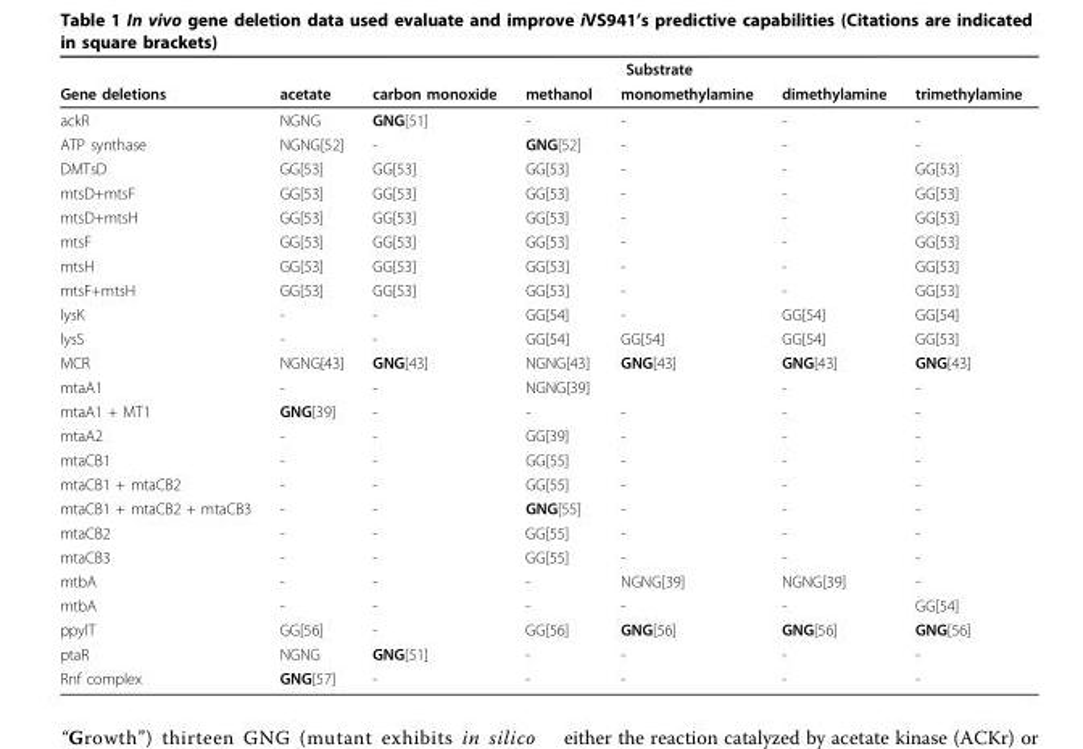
<table><thead><tr><td rowspan="2">Gene deletions</td><td colspan="6">Substrate</td></tr><tr><td>acetate</td><td>carbon monoxide</td><td>methanol</td><td>monomethylamine</td><td>dimethylamine</td><td>trimethylamine</td></tr></thead><tbody><tr><td>ackR</td><td>NGNG</td><td>GNG[51]</td><td>-</td><td>-</td><td>-</td><td>-</td></tr><tr><td>ATP synthase</td><td>NGNG[52]</td><td>-</td><td>GNG[52]</td><td>-</td><td>-</td><td>-</td></tr><tr><td>DMTsD</td><td>GG[53]</td><td>GG[53]</td><td>GG[53]</td><td>-</td><td>-</td><td>GG[53]</td></tr><tr><td>mtsD+mtsF</td><td>GG[53]</td><td>GG[53]</td><td>GG[53]</td><td>-</td><td>-</td><td>GG[53]</td></tr><tr><td>mtsD+mtsH</td><td>GG[53]</td><td>GG[53]</td><td>GG[53]</td><td>-</td><td>-</td><td>GG[53]</td></tr><tr><td>mtsF</td><td>GG[53]</td><td>GG[53]</td><td>GG[53]</td><td>-</td><td>-</td><td>GG[53]</td></tr><tr><td>mtsH</td><td>GG[53]</td><td>GG[53]</td><td>GG[53]</td><td>-</td><td>-</td><td>GG[53]</td></tr><tr><td>mtsF+mtsH</td><td>GG[53]</td><td>GG[53]</td><td>GG[53]</td><td>-</td><td>-</td><td>GG[53]</td></tr><tr><td>lysK</td><td>-</td><td>-</td><td>GG[54]</td><td>-</td><td>GG[54]</td><td>GG[54]</td></tr><tr><td>lysS</td><td>-</td><td>-</td><td>GG[54]</td><td>GG[54]</td><td>GG[54]</td><td>GG[53]</td></tr><tr><td>MCR</td><td>NGNG[43]</td><td>GNG[43]</td><td>NGNG[43]</td><td>GNG[43]</td><td>GNG[43]</td><td>GNG[43]</td></tr><tr><td>mtaA1</td><td>-</td><td>-</td><td>NGNG[39]</td><td></td><td>-</td><td>-</td></tr><tr><td>mtaA1 + MT1</td><td>GNG[39]</td><td>-</td><td>-</td><td>-</td><td>-</td><td>-</td></tr><tr><td>mtaA2</td><td>-</td><td>-</td><td>GG[39]</td><td>-</td><td>-</td><td>-</td></tr><tr><td>mtaCB1</td><td>-</td><td>-</td><td>GG[55]</td><td>-</td><td>-</td><td>-</td></tr><tr><td>mtaCB1 + mtaCB2</td><td>-</td><td>-</td><td>GG[55]</td><td>-</td><td>-</td><td>-</td></tr><tr><td>mtaCB1 + mtaCB2 + mtaCB3</td><td>-</td><td>-</td><td>GNG[55]</td><td>-</td><td>-</td><td>-</td></tr><tr><td>mtaCB2</td><td>-</td><td>-</td><td>GG[55]</td><td>-</td><td>-</td><td>-</td></tr><tr><td>mtaCB3</td><td>-</td><td>-</td><td>GG[55]</td><td>-</td><td>-</td><td>-</td></tr><tr><td>mtbA</td><td>-</td><td>-</td><td>-</td><td>NGNG[39]</td><td>NGNG[39]</td><td>-</td></tr><tr><td>mtbA</td><td>-</td><td>-</td><td>-</td><td>-</td><td>-</td><td>GG[54]</td></tr><tr><td>ppylT</td><td>GG[56]</td><td>-</td><td>GG[56]</td><td>GNG[56]</td><td>GNG[56]</td><td>GNG[56]</td></tr><tr><td>ptaR</td><td>NGNG</td><td>GNG[51]</td><td>-</td><td>-</td><td>-</td><td>-</td></tr><tr><td>Rnf complex</td><td>GNG[57]</td><td>-</td><td>-</td><td>-</td><td>-</td><td>-</td></tr></tbody></table>